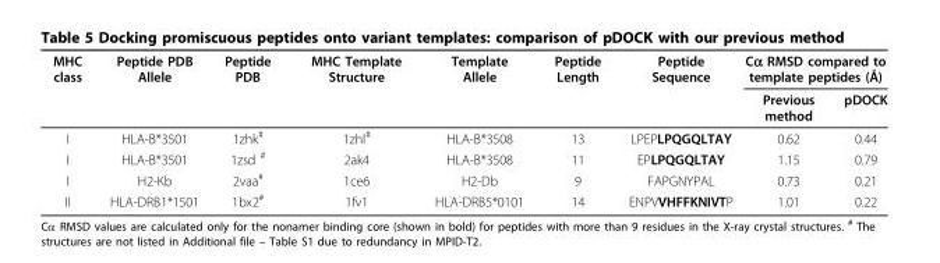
<table><thead><tr><td rowspan="2">MHC class</td><td rowspan="2">Peptide PDB Allele</td><td rowspan="2">Peptide PDB</td><td rowspan="2">MHC Template Structure</td><td rowspan="2">Template Allele</td><td rowspan="2">Peptide Length</td><td rowspan="2">Peptide Sequence</td><td colspan="2">Cα RMSD compared to template peptides (Å)</td></tr><tr><td>Previous method</td><td>pDOCK</td></tr></thead><tbody><tr><td>I</td><td>HLA-B*3501</td><td>1zhk<sup>#</sup></td><td>1zhl<sup>#</sup></td><td>HLA-B*3508</td><td>13</td><td>LPEPLPQGQLTAY</td><td>0.62</td><td>0.44</td></tr><tr><td>I</td><td>HLA-B*3501</td><td>1zsd <sup>#</sup></td><td>2ak4</td><td>HLA-B*3508</td><td>11</td><td>EPLPQGQLTAY</td><td>1.15</td><td>0.79</td></tr><tr><td>I</td><td>H2-Kb</td><td>2vaa<sup>#</sup></td><td>1ce6</td><td>H2-Db</td><td>9</td><td>FAPGNYPAL</td><td>0.73</td><td>0.21</td></tr><tr><td>II</td><td>HLA-DRB1*1501</td><td>1bx2<sup>#</sup></td><td>1fv1</td><td>HLA-DRB5*0101</td><td>14</td><td>ENPVVHFFKNIVTP</td><td>1.01</td><td>0.22</td></tr></tbody></table>